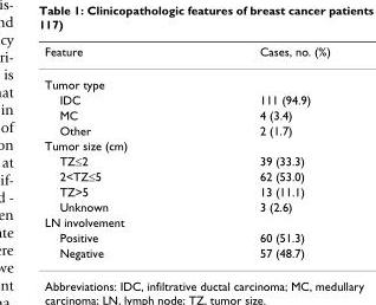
<table><thead><tr><td>Feature</td><td>Cases, no. (%)</td></tr></thead><tbody><tr><td colspan="2">Tumor type</td></tr><tr><td>IDC</td><td>111 (94.9)</td></tr><tr><td>MC</td><td>4 (3.4)</td></tr><tr><td>Other</td><td>2 (1.7)</td></tr><tr><td colspan="2">Tumor size (cm)</td></tr><tr><td>TZ≤2</td><td>39 (33.3)</td></tr><tr><td>2&lt;TZ≤5</td><td>62 (53.0)</td></tr><tr><td>TZ&gt;5</td><td>13 (11.1)</td></tr><tr><td>Unknown</td><td>3 (2.6)</td></tr><tr><td colspan="2">LN involvement</td></tr><tr><td>Positive</td><td>60 (51.3)</td></tr><tr><td>Negative</td><td>57 (48.7)</td></tr></tbody></table>